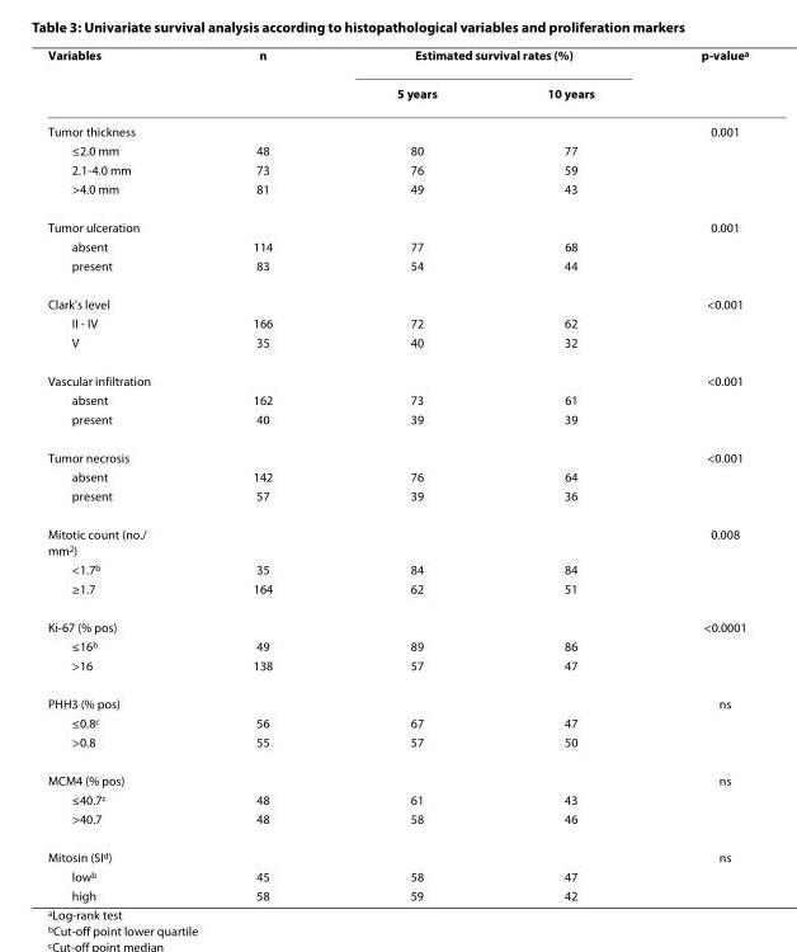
<table><thead><tr><td rowspan="2">Variables</td><td rowspan="2">n</td><td colspan="2">Estimated survival rates (%)</td><td rowspan="2">p-value<sup>a</sup></td></tr><tr><td>5 years</td><td>10 years</td></tr></thead><tbody><tr><td>Tumor thickness</td><td></td><td></td><td></td><td>0.001</td></tr><tr><td>≤2.0 mm</td><td>48</td><td>80</td><td>77</td><td></td></tr><tr><td>2.1-4.0 mm</td><td>73</td><td>76</td><td>59</td><td></td></tr><tr><td>&gt;4.0 mm</td><td>81</td><td>49</td><td>43</td><td></td></tr><tr><td>Tumor ulceration</td><td></td><td></td><td></td><td>0.001</td></tr><tr><td>absent</td><td>114</td><td>77</td><td>68</td><td></td></tr><tr><td>present</td><td>83</td><td>54</td><td>44</td><td></td></tr><tr><td>Clark&#x27;s level</td><td></td><td></td><td></td><td>&lt;0.001</td></tr><tr><td>II - IV</td><td>166</td><td>72</td><td>62</td><td></td></tr><tr><td>V</td><td>35</td><td>40</td><td>32</td><td></td></tr><tr><td>Vascular infiltration</td><td></td><td></td><td></td><td>&lt;0.001</td></tr><tr><td>absent</td><td>162</td><td>73</td><td>61</td><td></td></tr><tr><td>present</td><td>40</td><td>39</td><td>39</td><td></td></tr><tr><td>Tumor necrosis</td><td></td><td></td><td></td><td>&lt;0.001</td></tr><tr><td>absent</td><td>142</td><td>76</td><td>64</td><td></td></tr><tr><td>present</td><td>57</td><td>39</td><td>36</td><td></td></tr><tr><td>Mitotic count (no./ mm<sup>2</sup>)</td><td></td><td></td><td></td><td>0.008</td></tr><tr><td>&lt;1.7<sup>b</sup></td><td>35</td><td>84</td><td>84</td><td></td></tr><tr><td>≥1.7</td><td>164</td><td>62</td><td>51</td><td></td></tr><tr><td>Ki-67 (% pos)</td><td></td><td></td><td></td><td>&lt;0.0001</td></tr><tr><td>≤16<sup>b</sup></td><td>49</td><td>89</td><td>86</td><td></td></tr><tr><td>&gt;16</td><td>138</td><td>57</td><td>47</td><td></td></tr><tr><td>PHH3 (% pos)</td><td></td><td></td><td></td><td>ns</td></tr><tr><td>≤0.8<sup>c</sup></td><td>56</td><td>67</td><td>47</td><td></td></tr><tr><td>&gt;0.8</td><td>55</td><td>57</td><td>50</td><td></td></tr><tr><td>MCM4 (% pos)</td><td></td><td></td><td></td><td>ns</td></tr><tr><td>≤40.7<sup>c</sup></td><td>48</td><td>61</td><td>43</td><td></td></tr><tr><td>&gt;40.7</td><td>48</td><td>58</td><td>46</td><td></td></tr><tr><td>Mitosin (SI<sup>d</sup>)</td><td></td><td></td><td></td><td>ns</td></tr><tr><td>low<sup>b</sup></td><td>45</td><td>58</td><td>47</td><td></td></tr><tr><td>high</td><td>58</td><td>59</td><td>42</td><td></td></tr></tbody></table>